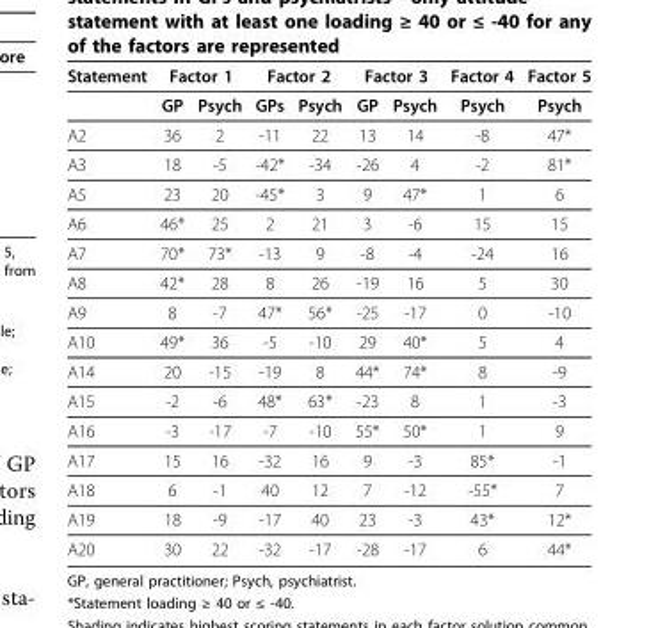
<table><thead><tr><td rowspan="2">Statement</td><td colspan="2">Factor 1</td><td colspan="2">Factor 2</td><td colspan="2">Factor 3</td><td rowspan="2">Factor 4 Psych</td><td rowspan="2">Factor 5 Psych</td></tr><tr><td>GP</td><td>Psych</td><td>GPs</td><td>Psych</td><td>GP</td><td>Psych</td></tr></thead><tbody><tr><td>A2</td><td>36</td><td>2</td><td>-11</td><td>22</td><td>13</td><td>14</td><td>-8</td><td>47*</td></tr><tr><td>A3</td><td>18</td><td>-5</td><td>-42*</td><td>-34</td><td>-26</td><td>4</td><td>-2</td><td>81*</td></tr><tr><td>A5</td><td>23</td><td>20</td><td>-45*</td><td>3</td><td>9</td><td>47*</td><td>1</td><td>6</td></tr><tr><td>A6</td><td>46*</td><td>25</td><td>2</td><td>21</td><td>3</td><td>-6</td><td>15</td><td>15</td></tr><tr><td>A7</td><td>70*</td><td>73*</td><td>-13</td><td>9</td><td>-8</td><td>-4</td><td>-24</td><td>16</td></tr><tr><td>A8</td><td>42*</td><td>28</td><td>8</td><td>26</td><td>-19</td><td>16</td><td>5</td><td>30</td></tr><tr><td>A9</td><td>8</td><td>-7</td><td>47*</td><td>56*</td><td>-25</td><td>-17</td><td>0</td><td>-10</td></tr><tr><td>A10</td><td>49*</td><td>36</td><td>-5</td><td>-10</td><td>29</td><td>40*</td><td>5</td><td>4</td></tr><tr><td>A14</td><td>20</td><td>-15</td><td>-19</td><td>8</td><td>44*</td><td>74*</td><td>8</td><td>-9</td></tr><tr><td>A15</td><td>-2</td><td>-6</td><td>48*</td><td>63*</td><td>-23</td><td>8</td><td>1</td><td>-3</td></tr><tr><td>A16</td><td>-3</td><td>-17</td><td>-7</td><td>-10</td><td>55*</td><td>50*</td><td>1</td><td>9</td></tr><tr><td>A17</td><td>15</td><td>16</td><td>-32</td><td>16</td><td>9</td><td>-3</td><td>85*</td><td>-1</td></tr><tr><td>A18</td><td>6</td><td>-1</td><td>40</td><td>12</td><td>7</td><td>-12</td><td>-55*</td><td>7</td></tr><tr><td>A19</td><td>18</td><td>-9</td><td>-17</td><td>40</td><td>23</td><td>-3</td><td>43*</td><td>12*</td></tr><tr><td>A20</td><td>30</td><td>22</td><td>-32</td><td>-17</td><td>-28</td><td>-17</td><td>6</td><td>44*</td></tr></tbody></table>